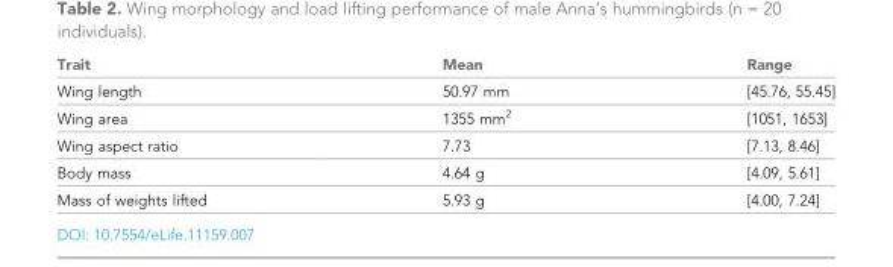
<table><thead><tr><td>Trait</td><td>Mean</td><td>Range</td></tr></thead><tbody><tr><td>Wing length</td><td>50.97 mm</td><td>[45.76, 55.45]</td></tr><tr><td>Wing area</td><td>1355 mm<sup>2</sup></td><td>[1051, 1653]</td></tr><tr><td>Wing aspect ratio</td><td>7.73</td><td>[7.13, 8.46]</td></tr><tr><td>Body mass</td><td>4.64 g</td><td>[4.09, 5.61]</td></tr><tr><td>Mass of weights lifted</td><td>5.93 g</td><td>[4.00, 7.24]</td></tr></tbody></table>